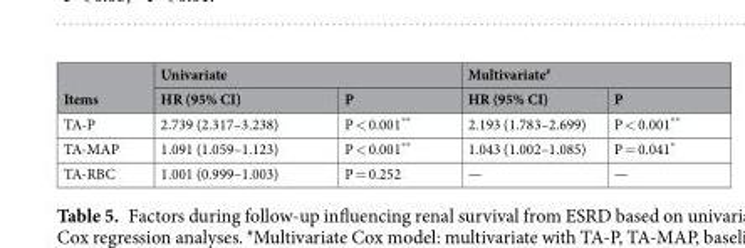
<table><thead><tr><td rowspan="2">Items</td><td colspan="2">Univariate</td><td colspan="2">Multivariate<sup>#</sup></td></tr><tr><td>HR (95% CI)</td><td>P</td><td>HR (95% CI)</td><td>P</td></tr></thead><tbody><tr><td>TA-P</td><td>2.739 (2.317–3.238)</td><td>P &lt; 0.001**</td><td>2.193 (1.783–2.699)</td><td>P &lt; 0.001**</td></tr><tr><td>TA-MAP</td><td>1.091 (1.059–1.123)</td><td>P &lt; 0.001**</td><td>1.043 (1.002–1.085)</td><td>P = 0.041*</td></tr><tr><td>TA-RBC</td><td>1.001 (0.999–1.003)</td><td>P = 0.252</td><td>—</td><td>—</td></tr></tbody></table>